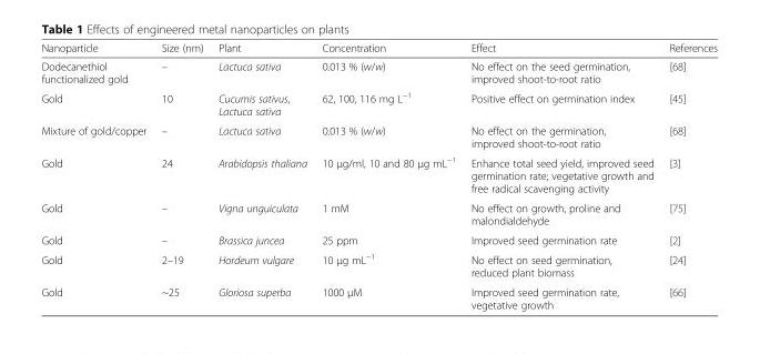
<table><thead><tr><td>Nanoparticle</td><td>Size (nm)</td><td>Plant</td><td>Concentration</td><td>Effect</td><td>References</td></tr></thead><tbody><tr><td>Dodecanethiol functionalized gold</td><td>–</td><td>Lactuca sativa</td><td>0.013 % (w/w)</td><td>No effect on the seed germination, improved shoot-to-root ratio</td><td>[68]</td></tr><tr><td>Gold</td><td>10</td><td>Cucumis sativus, Lactuca sativa</td><td>62, 100, 116 mg L<sup>−1</sup></td><td>Positive effect on germination index</td><td>[45]</td></tr><tr><td>Mixture of gold/copper</td><td>–</td><td>Lactuca sativa</td><td>0.013 % (w/w)</td><td>No effect on the germination, improved shoot-to-root ratio</td><td>[68]</td></tr><tr><td>Gold</td><td>24</td><td>Arabidopsis thaliana</td><td>10 μg/ml, 10 and 80 μg mL<sup>−1</sup></td><td>Enhance total seed yield, improved seed germination rate; vegetative growth and free radical scavenging activity</td><td>[3]</td></tr><tr><td>Gold</td><td>–</td><td>Vigna unguiculata</td><td>1 mM</td><td>No effect on growth, proline and malondialdehyde</td><td>[75]</td></tr><tr><td>Gold</td><td>–</td><td>Brassica juncea</td><td>25 ppm</td><td>Improved seed germination rate</td><td>[2]</td></tr><tr><td>Gold</td><td>2–19</td><td>Hordeum vulgare</td><td>10 μg mL<sup>−1</sup></td><td>No effect on seed germination, reduced plant biomass</td><td>[24]</td></tr><tr><td>Gold</td><td>~25</td><td>Gloriosa superba</td><td>1000 μM</td><td>Improved seed germination rate, vegetative growth</td><td>[66]</td></tr></tbody></table>